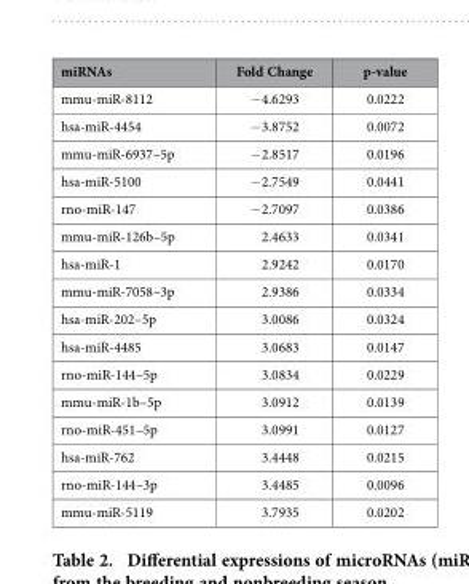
<table><thead><tr><td>miRNAs</td><td>Fold Change</td><td>p-value</td></tr></thead><tbody><tr><td>mmu-miR-8112</td><td>− 4.6293</td><td>0.0222</td></tr><tr><td>hsa-miR-4454</td><td>− 3.8752</td><td>0.0072</td></tr><tr><td>mmu-miR-6937–5p</td><td>− 2.8517</td><td>0.0196</td></tr><tr><td>hsa-miR-5100</td><td>− 2.7549</td><td>0.0441</td></tr><tr><td>rno-miR-147</td><td>− 2.7097</td><td>0.0386</td></tr><tr><td>mmu-miR-126b–5p</td><td>2.4633</td><td>0.0341</td></tr><tr><td>hsa-miR-1</td><td>2.9242</td><td>0.0170</td></tr><tr><td>mmu-miR-7058–3p</td><td>2.9386</td><td>0.0334</td></tr><tr><td>hsa-miR-202–5p</td><td>3.0086</td><td>0.0324</td></tr><tr><td>hsa-miR-4485</td><td>3.0683</td><td>0.0147</td></tr><tr><td>rno-miR-144–5p</td><td>3.0834</td><td>0.0229</td></tr><tr><td>mmu-miR-1b–5p</td><td>3.0912</td><td>0.0139</td></tr><tr><td>rno-miR-451–5p</td><td>3.0991</td><td>0.0127</td></tr><tr><td>hsa-miR-762</td><td>3.4448</td><td>0.0215</td></tr><tr><td>rno-miR-144–3p</td><td>3.4485</td><td>0.0096</td></tr><tr><td>mmu-miR-5119</td><td>3.7935</td><td>0.0202</td></tr></tbody></table>